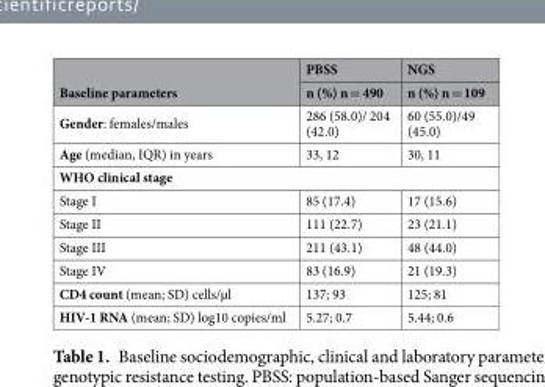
<table><thead><tr><td rowspan="2">Baseline parameters</td><td rowspan="2">PBSS n (%) n = 490</td><td rowspan="2">NGS n (%) n = 109</td></tr><tr></tr></thead><tbody><tr><td>Gender: females/males</td><td>286 (58.0)/ 204 (42.0)</td><td>60 (55.0)/49 (45.0)</td></tr><tr><td>Age (median, IQR) in years</td><td>33, 12</td><td>30, 11</td></tr><tr><td colspan="3">WHO clinical stage</td></tr><tr><td>Stage I</td><td>85 (17.4)</td><td>17 (15.6)</td></tr><tr><td>Stage II</td><td>111 (22.7)</td><td>23 (21.1)</td></tr><tr><td>Stage III</td><td>211 (43.1)</td><td>48 (44.0)</td></tr><tr><td>Stage IV</td><td>83 (16.9)</td><td>21 (19.3)</td></tr><tr><td>CD4 count (mean; SD) cells/µl</td><td>137; 93</td><td>125; 81</td></tr><tr><td>HIV-1 RNA (mean; SD) log10 copies/ml</td><td>5.27; 0.7</td><td>5.44; 0.6</td></tr></tbody></table>